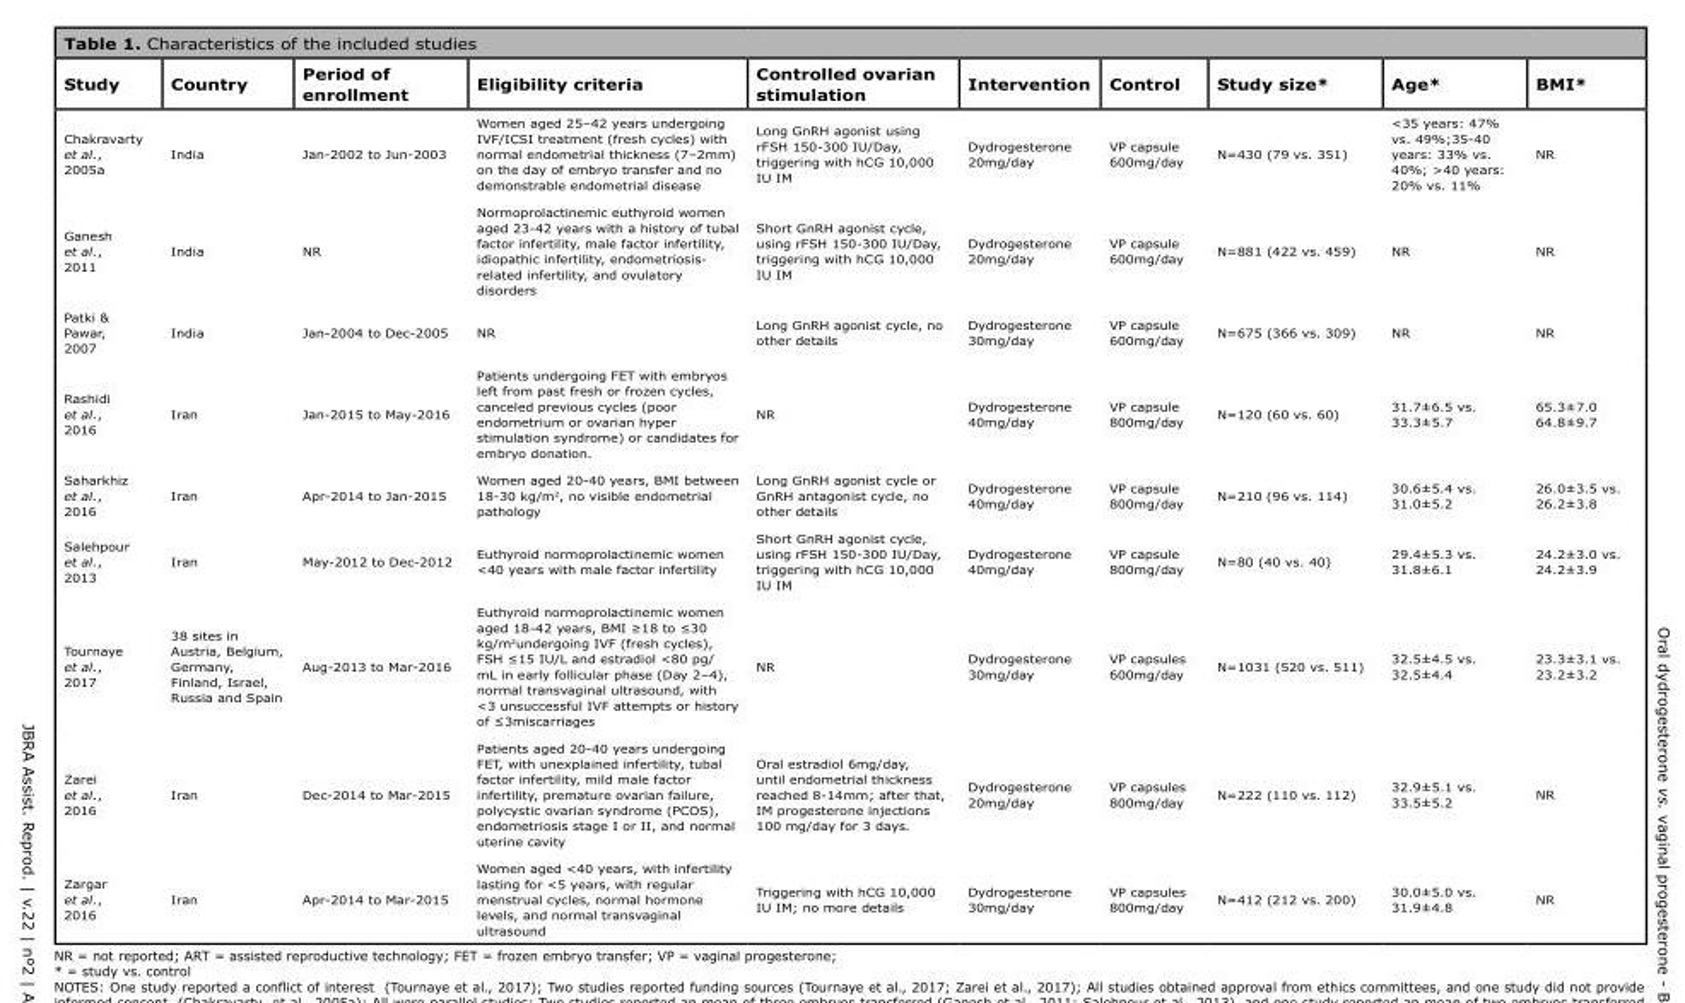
<table><thead><tr><td>Study</td><td>Country</td><td>Period of enrollment</td><td>Eligibility criteria</td><td>Controlled ovarian stimulation</td><td>Intervention</td><td>Control</td><td>Study size*</td><td>Age*</td><td>BMI*</td></tr></thead><tbody><tr><td>Chakravarty et al., 2005a</td><td>India</td><td>Jan-2002 to Jun-2003</td><td>Women aged 25–42 years undergoing IVF/ICSI treatment (fresh cycles) with normal endometrial thickness (7–2mm) on the day of embryo transfer and no demonstrable endometrial disease</td><td>Long GnRH agonist using rFSH 150-300 IU/Day, triggering with hCG 10,000 IU IM</td><td>Dydrogesterone 20mg/day</td><td>VP capsule 600mg/day</td><td>N=430 (79 vs. 351)</td><td>&lt;35 years: 47% vs. 49%;35-40 years: 33% vs. 40%; &gt;40 years: 20% vs. 11%</td><td>NR</td></tr><tr><td>Ganesh et al., 2011</td><td>India</td><td>NR</td><td>Normoprolactinemic euthyroid women aged 23-42 years with a history of tubal factor infertility, male factor infertility, idiopathic infertility, endometriosis- related infertility, and ovulatory disorders</td><td>Short GnRH agonist cycle, using rFSH 150-300 IU/Day, triggering with hCG 10,000 IU IM</td><td>Dydrogesterone 20mg/day</td><td>VP capsule 600mg/day</td><td>N=881 (422 vs. 459)</td><td>NR</td><td>NR</td></tr><tr><td>Patki &amp; Pawar, 2007</td><td>India</td><td>Jan-2004 to Dec-2005</td><td>NR</td><td>Long GnRH agonist cycle, no other details</td><td>Dydrogesterone 30mg/day</td><td>VP capsule 600mg/day</td><td>N=675 (366 vs. 309)</td><td>NR</td><td>NR</td></tr><tr><td>Rashidi et al., 2016</td><td>Iran</td><td>Jan-2015 to May-2016</td><td>Patients undergoing FET with embryos left from past fresh or frozen cycles, canceled previous cycles (poor endometrium or ovarian hyper stimulation syndrome) or candidates for embryo donation.</td><td>NR</td><td>Dydrogesterone 40mg/day</td><td>VP capsule 800mg/day</td><td>N=120 (60 vs. 60)</td><td>31.7±6.5 vs. 33.3±5.7</td><td>65.3±7.0 64.8±9.7</td></tr><tr><td>Saharkhiz et al., 2016</td><td>Iran</td><td>Apr-2014 to Jan-2015</td><td>Women aged 20-40 years, BMI between 18-30 kg/m<sup>2</sup>, no visible endometrial pathology</td><td>Long GnRH agonist cycle or GnRH antagonist cycle, no other details</td><td>Dydrogesterone 40mg/day</td><td>VP capsule 800mg/day</td><td>N=210 (96 vs. 114)</td><td>30.6±5.4 vs. 31.0±5.2</td><td>26.0±3.5 vs. 26.2±3.8</td></tr><tr><td>Salehpour et al., 2013</td><td>Iran</td><td>May-2012 to Dec-2012</td><td>Euthyroid normoprolactinemic women &lt;40 years with male factor infertility</td><td>Short GnRH agonist cycle, using rFSH 150-300 IU/Day, triggering with hCG 10,000 IU IM</td><td>Dydrogesterone 40mg/day</td><td>VP capsule 800mg/day</td><td>N=80 (40 vs. 40)</td><td>29.4±5.3 vs. 31.8±6.1</td><td>24.2±3.0 vs. 24.2±3.9</td></tr><tr><td>Tournaye et al., 2017</td><td>38 sites in Austria, Belgium, Germany, Finland, Israel, Russia and Spain</td><td>Aug-2013 to Mar-2016</td><td>Euthyroid normoprolactinemic women aged 18-42 years, BMI ≥18 to ≤30 kg/m<sup>2</sup>undergoing IVF (fresh cycles), FSH ≤15 IU/L and estradiol &lt;80 pg/ mL in early follicular phase (Day 2–4), normal transvaginal ultrasound, with &lt;3 unsuccessful IVF attempts or history of ≤3miscarriages</td><td>NR</td><td>Dydrogesterone 30mg/day</td><td>VP capsules 600mg/day</td><td>N=1031 (520 vs. 511)</td><td>32.5±4.5 vs. 32.5±4.4</td><td>23.3±3.1 vs. 23.2±3.2</td></tr><tr><td>Zarei et al., 2016</td><td>Iran</td><td>Dec-2014 to Mar-2015</td><td>Patients aged 20-40 years undergoing FET, with unexplained infertility, tubal factor infertility, mild male factor infertility, premature ovarian failure, polycystic ovarian syndrome (PCOS), endometriosis stage I or II, and normal uterine cavity</td><td>Oral estradiol 6mg/day, until endometrial thickness reached 8-14mm; after that, IM progesterone injections 100 mg/day for 3 days.</td><td>Dydrogesterone 20mg/day</td><td>VP capsules 800mg/day</td><td>N=222 (110 vs. 112)</td><td>32.9±5.1 vs. 33.5±5.2</td><td>NR</td></tr><tr><td>Zargar et al., 2016</td><td>Iran</td><td>Apr-2014 to Mar-2015</td><td>Women aged &lt;40 years, with infertility lasting for &lt;5 years, with regular menstrual cycles, normal hormone levels, and normal transvaginal ultrasound</td><td>Triggering with hCG 10,000 IU IM; no more details</td><td>Dydrogesterone 30mg/day</td><td>VP capsules 800mg/day</td><td>N=412 (212 vs. 200)</td><td>30.0±5.0 vs. 31.9±4.8</td><td>NR</td></tr></tbody></table>